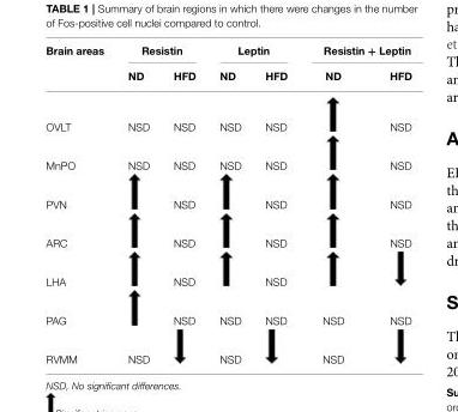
<table><thead><tr><td rowspan="2">Brain areas</td><td colspan="2">Resistin</td><td colspan="2">Leptin</td><td colspan="2">Resistin + Leptin</td></tr><tr><td>ND</td><td>HFD</td><td>ND</td><td>HFD</td><td>ND</td><td>HFD</td></tr></thead><tbody><tr><td>OVLT</td><td>NSD</td><td>NSD</td><td>NSD</td><td>NSD</td><td></td><td>NSD</td></tr><tr><td>MnPO</td><td>NSD</td><td>NSD</td><td>NSD</td><td>NSD</td><td></td><td>NSD</td></tr><tr><td>PVN</td><td></td><td>NSD</td><td></td><td>NSD</td><td></td><td>NSD</td></tr><tr><td>ARC</td><td></td><td>NSD</td><td></td><td>NSD</td><td></td><td>NSD</td></tr><tr><td>LHA</td><td></td><td>NSD</td><td></td><td>NSD</td><td></td><td></td></tr><tr><td>PAG</td><td></td><td>NSD</td><td>NSD</td><td>NSD</td><td>NSD</td><td>NSD</td></tr><tr><td>RVMM</td><td>NSD</td><td></td><td>NSD</td><td></td><td>NSD</td><td></td></tr></tbody></table>